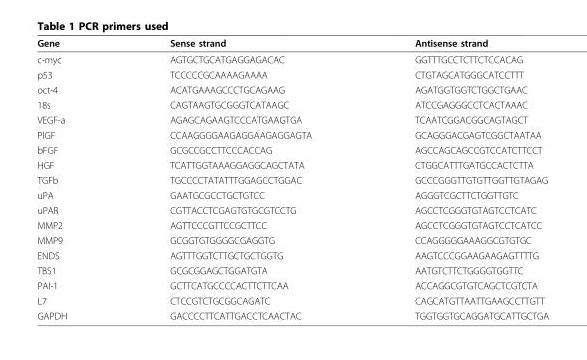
<table><thead><tr><td>Gene</td><td>Sense strand</td><td>Antisense strand</td></tr></thead><tbody><tr><td>c-myc</td><td>AGTGCTGCATGAGGAGACAC</td><td>GGTTTGCCTCTTCTCCACAG</td></tr><tr><td>p53</td><td>TCCCCCGCAAAAGAAAA</td><td>CTGTAGCATGGGCATCCTTT</td></tr><tr><td>oct-4</td><td>ACATGAAAGCCCTGCAGAAG</td><td>AGATGGTGGTCTGGCTGAAC</td></tr><tr><td>18s</td><td>CAGTAAGTGCGGGTCATAAGC</td><td>ATCCGAGGGCCTCACTAAAC</td></tr><tr><td>VEGF-a</td><td>AGAGCAGAAGTCCCATGAAGTGA</td><td>TCAATCGGACGGCAGTAGCT</td></tr><tr><td>PlGF</td><td>CCAAGGGGAAGAGGAAGAGGAGTA</td><td>GCAGGGACGAGTCGGCTAATAA</td></tr><tr><td>bFGF</td><td>GCGCCGCCTTCCCACCAG</td><td>AGCCAGCAGCCGTCCATCTTCCT</td></tr><tr><td>HGF</td><td>TCATTGGTAAAGGAGGCAGCTATA</td><td>CTGGCATTTGATGCCACTCTTA</td></tr><tr><td>TGFb</td><td>TGCCCCTATATTTGGAGCCTGGAC</td><td>GCCCGGGTTGTGTTGGTTGTAGAG</td></tr><tr><td>uPA</td><td>GAATGCGCCTGCTGTCC</td><td>AGGGTCGCTTCTGGTTGTC</td></tr><tr><td>uPAR</td><td>CGTTACCTCGAGTGTGCGTCCTG</td><td>AGCCTCGGGTGTAGTCCTCATC</td></tr><tr><td>MMP2</td><td>AGTTCCCGTTCCGCTTCC</td><td>AGCCTCGGGTGTAGTCCTCATCC</td></tr><tr><td>MMP9</td><td>GCGGTGTGGGGCGAGGTG</td><td>CCAGGGGGAAAGGCGTGTGC</td></tr><tr><td>ENDS</td><td>AGTTTGGTCTTGCTGCTGGTG</td><td>AAGTCCCGGAAGAAGAGTTTTG</td></tr><tr><td>TBS1</td><td>GCGCGGAGCTGGATGTA</td><td>AATGTCTTCTGGGGTGGTTC</td></tr><tr><td>PAI-1</td><td>GCTTCATGCCCCACTTCTTCAA</td><td>ACCAGGCGTGTCAGCTCGTCTA</td></tr><tr><td>L7</td><td>CTCCGTCTGCGGCAGATC</td><td>CAGCATGTTAATTGAAGCCTTGTT</td></tr><tr><td>GAPDH</td><td>GACCCCTTCATTGACCTCAACTAC</td><td>TGGTGGTGCAGGATGCATTGCTGA</td></tr></tbody></table>